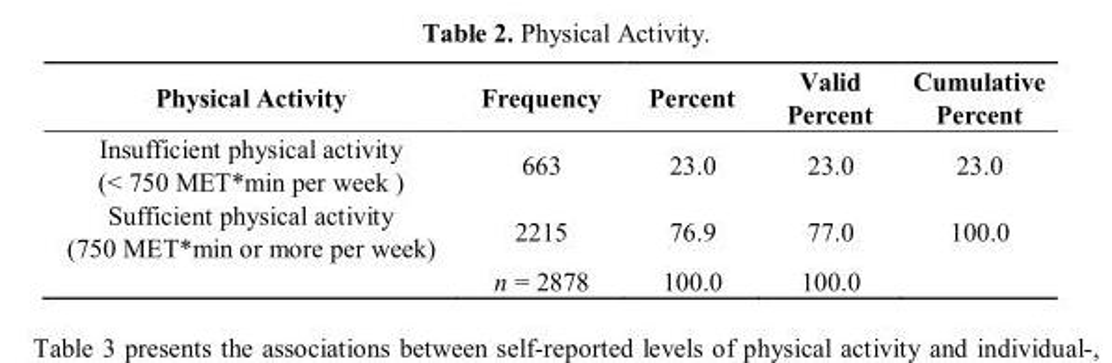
<table><thead><tr><td>Physical Activity</td><td>Frequency</td><td>Percent</td><td>Valid Percent</td><td>Cumulative Percent</td></tr></thead><tbody><tr><td>Insufficient physical activity (&lt; 750 MET*min per week )</td><td>663</td><td>23.0</td><td>23.0</td><td>23.0</td></tr><tr><td rowspan="2">Sufficient physical activity (750 MET*min or more per week)</td><td>2215</td><td>76.9</td><td>77.0</td><td>100.0</td></tr><tr><td>n = 2878</td><td>100.0</td><td>100.0</td><td></td></tr></tbody></table>